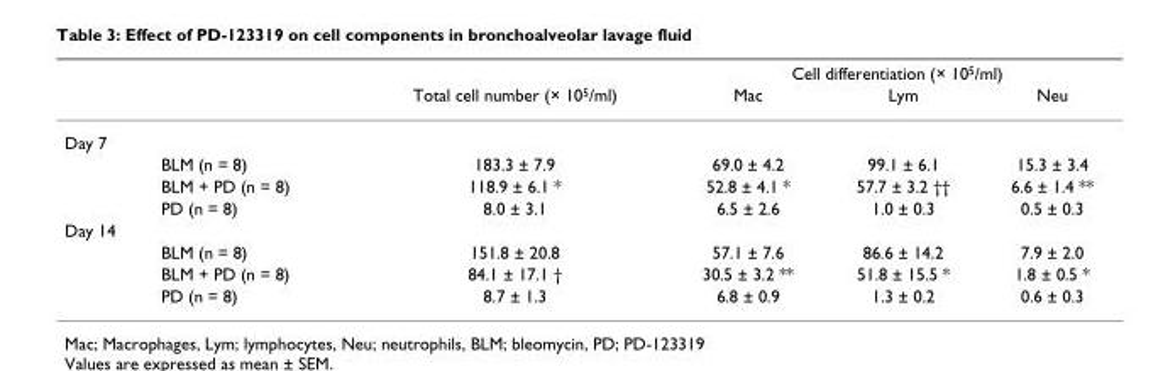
<table><thead><tr><td rowspan="2"></td><td rowspan="2"></td><td rowspan="2">Total cell number (× 10<sup>5</sup>/ml)</td><td colspan="3">Cell differentiation (× 10<sup>5</sup>/ml)</td></tr><tr><td>Mac</td><td>Lym</td><td>Neu</td></tr></thead><tbody><tr><td colspan="6">Day 7</td></tr><tr><td></td><td>BLM (n = 8)</td><td>183.3 ± 7.9</td><td>69.0 ± 4.2</td><td>99.1 ± 6.1</td><td>15.3 ± 3.4</td></tr><tr><td></td><td>BLM + PD (n = 8)</td><td>118.9 ± 6.1 *</td><td>52.8 ± 4.1 *</td><td>57.7 ± 3.2 ††</td><td>6.6 ± 1.4 **</td></tr><tr><td></td><td>PD (n = 8)</td><td>8.0 ± 3.1</td><td>6.5 ± 2.6</td><td>1.0 ± 0.3</td><td>0.5 ± 0.3</td></tr><tr><td colspan="6">Day 14</td></tr><tr><td></td><td>BLM (n = 8)</td><td>151.8 ± 20.8</td><td>57.1 ± 7.6</td><td>86.6 ± 14.2</td><td>7.9 ± 2.0</td></tr><tr><td></td><td>BLM + PD (n = 8)</td><td>84.1 ± 17.1 †</td><td>30.5 ± 3.2 **</td><td>51.8 ± 15.5 *</td><td>1.8 ± 0.5 *</td></tr><tr><td></td><td>PD (n = 8)</td><td>8.7 ± 1.3</td><td>6.8 ± 0.9</td><td>1.3 ± 0.2</td><td>0.6 ± 0.3</td></tr></tbody></table>